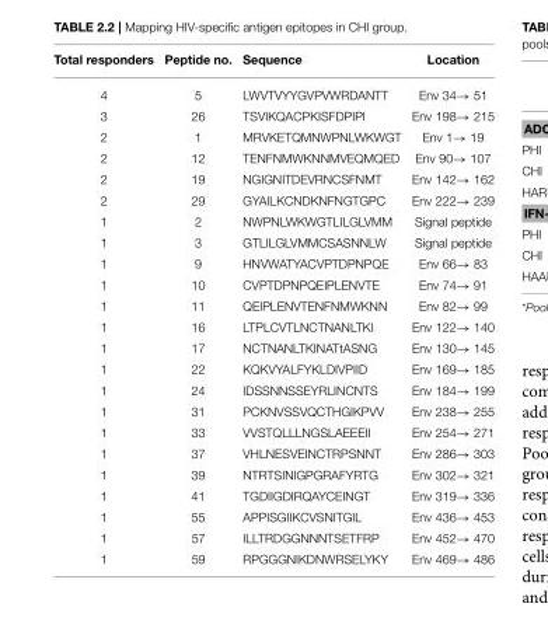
<table><thead><tr><td>Total responders</td><td>Peptide no.</td><td>Sequence</td><td>Location</td></tr></thead><tbody><tr><td>4</td><td>5</td><td>LWVTVYYGVPVWRDANTT</td><td>Env 34→ 51</td></tr><tr><td>3</td><td>26</td><td>TSVIKQACPKISFDPIPI</td><td>Env 198→ 215</td></tr><tr><td>2</td><td>1</td><td>MRVKETQMNWPNLWKWGT</td><td>Env 1→ 19</td></tr><tr><td>2</td><td>12</td><td>TENFNMWKNNMVEQMQED</td><td>Env 90→ 107</td></tr><tr><td>2</td><td>19</td><td>NGIGNITDEVRNCSFNMT</td><td>Env 142→ 162</td></tr><tr><td>2</td><td>29</td><td>GYAILKCNDKNFNGTGPC</td><td>Env 222→ 239</td></tr><tr><td>1</td><td>2</td><td>NWPNLWKWGTLILGLVMM</td><td>Signal peptide</td></tr><tr><td>1</td><td>3</td><td>GTLILGLVMMCSASNNLW</td><td>Signal peptide</td></tr><tr><td>1</td><td>9</td><td>HNVWATYACVPTDPNPQE</td><td>Env 66→ 83</td></tr><tr><td>1</td><td>10</td><td>CVPTDPNPQEIPLENVTE</td><td>Env 74→ 91</td></tr><tr><td>1</td><td>11</td><td>QEIPLENVTENFNMWKNN</td><td>Env 82→ 99</td></tr><tr><td>1</td><td>16</td><td>LTPLCVTLNCTNANLTKI</td><td>Env 122→ 140</td></tr><tr><td>1</td><td>17</td><td>NCTNANLTKINATtASNG</td><td>Env 130→ 145</td></tr><tr><td>1</td><td>22</td><td>KQKVYALFYKLDIVPIID</td><td>Env 169→ 185</td></tr><tr><td>1</td><td>24</td><td>IDSSNNSSEYRLINCNTS</td><td>Env 184→ 199</td></tr><tr><td>1</td><td>31</td><td>PCKNVSSVQCTHGIKPVV</td><td>Env 238→ 255</td></tr><tr><td>1</td><td>33</td><td>VVSTQLLLNGSLAEEEII</td><td>Env 254→ 271</td></tr><tr><td>1</td><td>37</td><td>VHLNESVEINCTRPSNNT</td><td>Env 286→ 303</td></tr><tr><td>1</td><td>39</td><td>NTRTSINIGPGRAFYRTG</td><td>Env 302→ 321</td></tr><tr><td>1</td><td>41</td><td>TGDIIGDIRQAYCEINGT</td><td>Env 319→ 336</td></tr><tr><td>1</td><td>55</td><td>APPISGIIKCVSNITGIL</td><td>Env 436→ 453</td></tr><tr><td>1</td><td>57</td><td>ILLTRDGGNNNTSETFRP</td><td>Env 452→ 470</td></tr><tr><td>1</td><td>59</td><td>RPGGGNIKDNWRSELYKY</td><td>Env 469→ 486</td></tr></tbody></table>